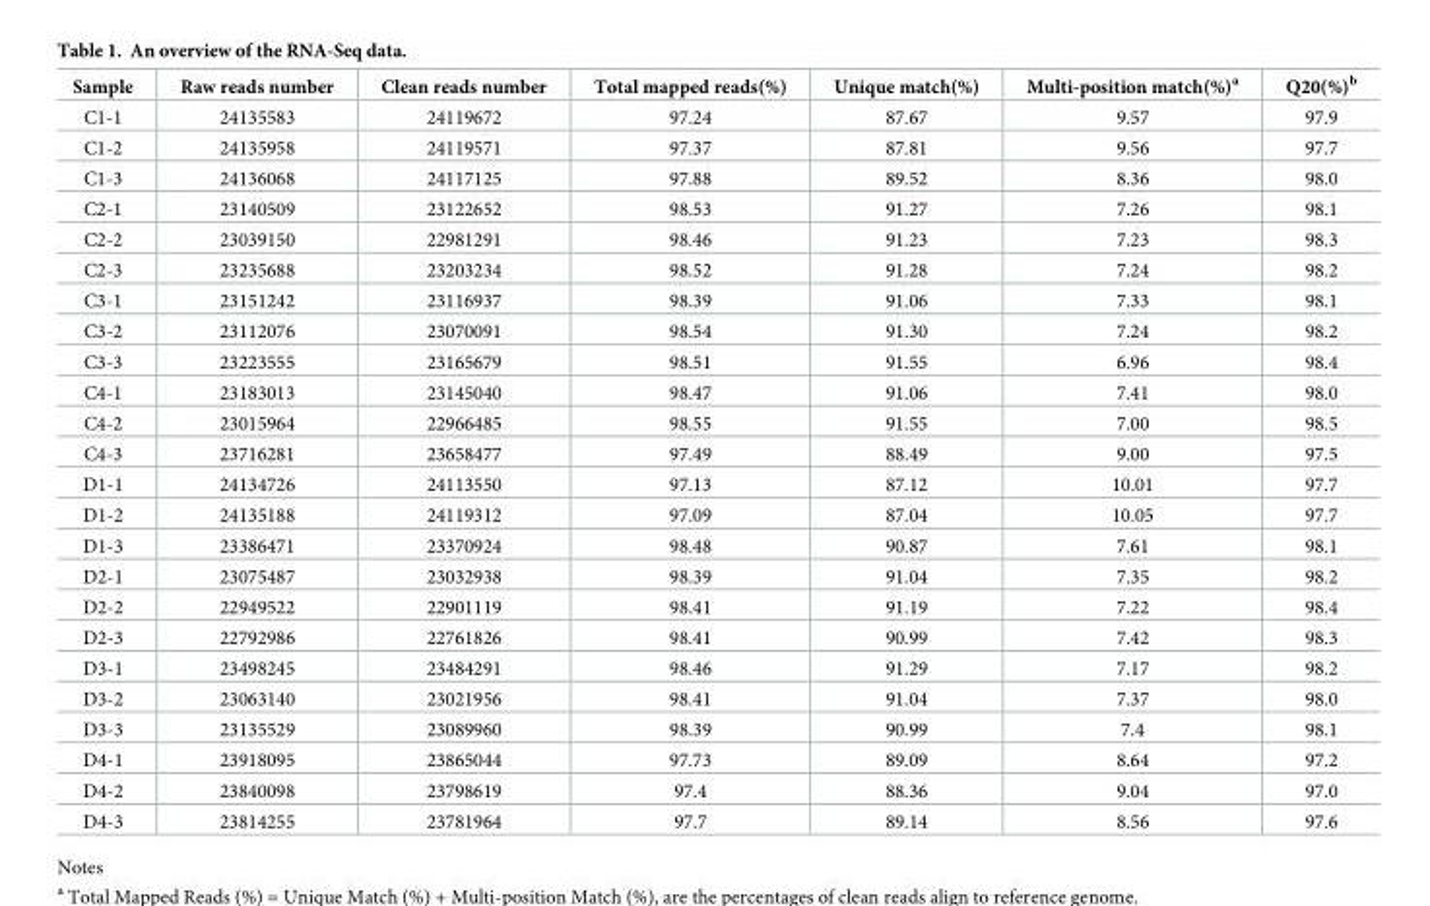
<table><thead><tr><td>Sample</td><td>Raw reads number</td><td>Clean reads number</td><td>Total mapped reads(%)</td><td>Unique match(%)</td><td>Multi-position match(%)<sup>a</sup></td><td>Q20(%)<sup>b</sup></td></tr></thead><tbody><tr><td>C1-1</td><td>24135583</td><td>24119672</td><td>97.24</td><td>87.67</td><td>9.57</td><td>97.9</td></tr><tr><td>C1-2</td><td>24135958</td><td>24119571</td><td>97.37</td><td>87.81</td><td>9.56</td><td>97.7</td></tr><tr><td>C1-3</td><td>24136068</td><td>24117125</td><td>97.88</td><td>89.52</td><td>8.36</td><td>98.0</td></tr><tr><td>C2-1</td><td>23140509</td><td>23122652</td><td>98.53</td><td>91.27</td><td>7.26</td><td>98.1</td></tr><tr><td>C2-2</td><td>23039150</td><td>22981291</td><td>98.46</td><td>91.23</td><td>7.23</td><td>98.3</td></tr><tr><td>C2-3</td><td>23235688</td><td>23203234</td><td>98.52</td><td>91.28</td><td>7.24</td><td>98.2</td></tr><tr><td>C3-1</td><td>23151242</td><td>23116937</td><td>98.39</td><td>91.06</td><td>7.33</td><td>98.1</td></tr><tr><td>C3-2</td><td>23112076</td><td>23070091</td><td>98.54</td><td>91.30</td><td>7.24</td><td>98.2</td></tr><tr><td>C3-3</td><td>23223555</td><td>23165679</td><td>98.51</td><td>91.55</td><td>6.96</td><td>98.4</td></tr><tr><td>C4-1</td><td>23183013</td><td>23145040</td><td>98.47</td><td>91.06</td><td>7.41</td><td>98.0</td></tr><tr><td>C4-2</td><td>23015964</td><td>22966485</td><td>98.55</td><td>91.55</td><td>7.00</td><td>98.5</td></tr><tr><td>C4-3</td><td>23716281</td><td>23658477</td><td>97.49</td><td>88.49</td><td>9.00</td><td>97.5</td></tr><tr><td>D1-1</td><td>24134726</td><td>24113550</td><td>97.13</td><td>87.12</td><td>10.01</td><td>97.7</td></tr><tr><td>D1-2</td><td>24135188</td><td>24119312</td><td>97.09</td><td>87.04</td><td>10.05</td><td>97.7</td></tr><tr><td>D1-3</td><td>23386471</td><td>23370924</td><td>98.48</td><td>90.87</td><td>7.61</td><td>98.1</td></tr><tr><td>D2-1</td><td>23075487</td><td>23032938</td><td>98.39</td><td>91.04</td><td>7.35</td><td>98.2</td></tr><tr><td>D2-2</td><td>22949522</td><td>22901119</td><td>98.41</td><td>91.19</td><td>7.22</td><td>98.4</td></tr><tr><td>D2-3</td><td>22792986</td><td>22761826</td><td>98.41</td><td>90.99</td><td>7.42</td><td>98.3</td></tr><tr><td>D3-1</td><td>23498245</td><td>23484291</td><td>98.46</td><td>91.29</td><td>7.17</td><td>98.2</td></tr><tr><td>D3-2</td><td>23063140</td><td>23021956</td><td>98.41</td><td>91.04</td><td>7.37</td><td>98.0</td></tr><tr><td>D3-3</td><td>23135529</td><td>23089960</td><td>98.39</td><td>90.99</td><td>7.4</td><td>98.1</td></tr><tr><td>D4-1</td><td>23918095</td><td>23865044</td><td>97.73</td><td>89.09</td><td>8.64</td><td>97.2</td></tr><tr><td>D4-2</td><td>23840098</td><td>23798619</td><td>97.4</td><td>88.36</td><td>9.04</td><td>97.0</td></tr><tr><td>D4-3</td><td>23814255</td><td>23781964</td><td>97.7</td><td>89.14</td><td>8.56</td><td>97.6</td></tr></tbody></table>